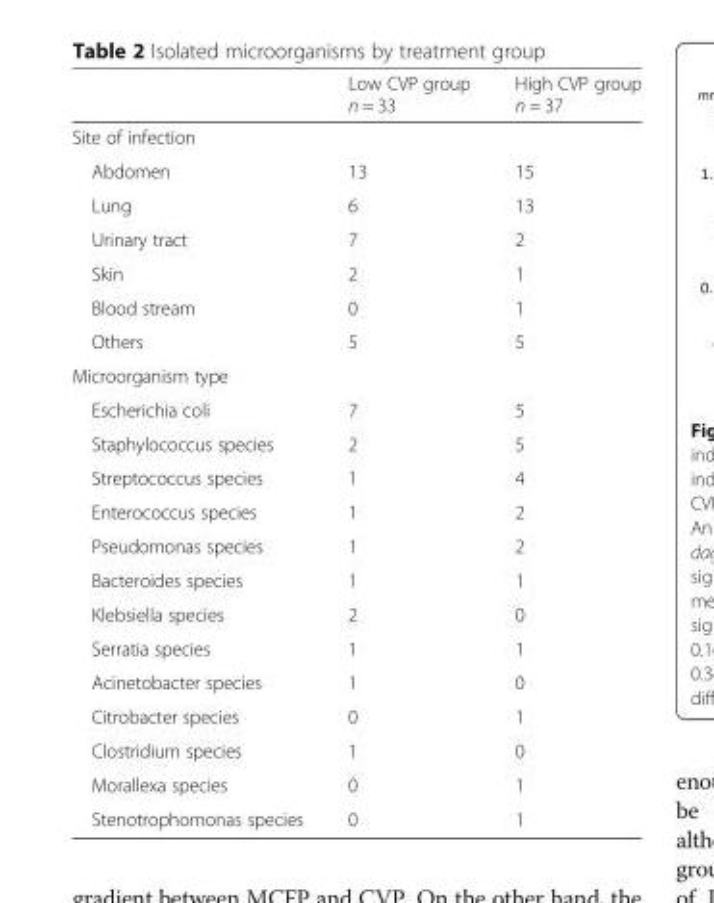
<table><thead><tr><td></td><td>Low CVP group n = 33</td><td>High CVP group n = 37</td></tr></thead><tbody><tr><td colspan="3">Site of infection</td></tr><tr><td>Abdomen</td><td>13</td><td>15</td></tr><tr><td>Lung</td><td>6</td><td>13</td></tr><tr><td>Urinary tract</td><td>7</td><td>2</td></tr><tr><td>Skin</td><td>2</td><td>1</td></tr><tr><td>Blood stream</td><td>0</td><td>1</td></tr><tr><td>Others</td><td>5</td><td>5</td></tr><tr><td colspan="3">Microorganism type</td></tr><tr><td>Escherichia coli</td><td>7</td><td>5</td></tr><tr><td>Staphylococcus species</td><td>2</td><td>5</td></tr><tr><td>Streptococcus species</td><td>1</td><td>4</td></tr><tr><td>Enterococcus species</td><td>1</td><td>2</td></tr><tr><td>Pseudomonas species</td><td>1</td><td>2</td></tr><tr><td>Bacteroides species</td><td>1</td><td>1</td></tr><tr><td>Klebsiella species</td><td>2</td><td>0</td></tr><tr><td>Serratia species</td><td>1</td><td>1</td></tr><tr><td>Acinetobacter species</td><td>1</td><td>0</td></tr><tr><td>Citrobacter species</td><td>0</td><td>1</td></tr><tr><td>Clostridium species</td><td>1</td><td>0</td></tr><tr><td>Morallexa species</td><td>0</td><td>1</td></tr><tr><td>Stenotrophomonas species</td><td>0</td><td>1</td></tr></tbody></table>